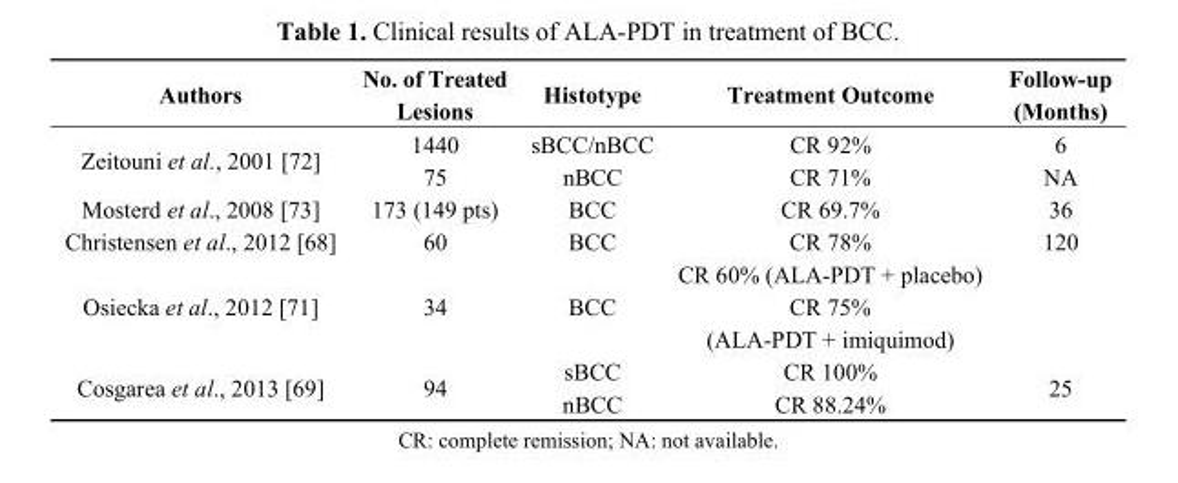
<table><thead><tr><td>Authors</td><td>No. of Treated Lesions</td><td>Histotype</td><td>Treatment Outcome</td><td>Follow-up (Months)</td></tr></thead><tbody><tr><td rowspan="2">Zeitouni et al., 2001 [72]</td><td>1440</td><td>sBCC/nBCC</td><td>CR 92%</td><td>6</td></tr><tr><td>75</td><td>nBCC</td><td>CR 71%</td><td>NA</td></tr><tr><td>Mosterd et al., 2008 [73]</td><td>173 (149 pts)</td><td>BCC</td><td>CR 69.7%</td><td>36</td></tr><tr><td>Christensen et al., 2012 [68]</td><td>60</td><td>BCC</td><td>CR 78%</td><td>120</td></tr><tr><td rowspan="2">Osiecka et al., 2012 [71]</td><td rowspan="2">34</td><td rowspan="2">BCC</td><td>CR 60% (ALA-PDT + placebo)</td><td rowspan="2"></td></tr><tr><td>CR 75% (ALA-PDT + imiquimod)</td></tr><tr><td rowspan="2">Cosgarea et al., 2013 [69]</td><td rowspan="2">94</td><td>sBCC</td><td>CR 100%</td><td rowspan="2">25</td></tr><tr><td>nBCC</td><td>CR 88.24%</td></tr></tbody></table>